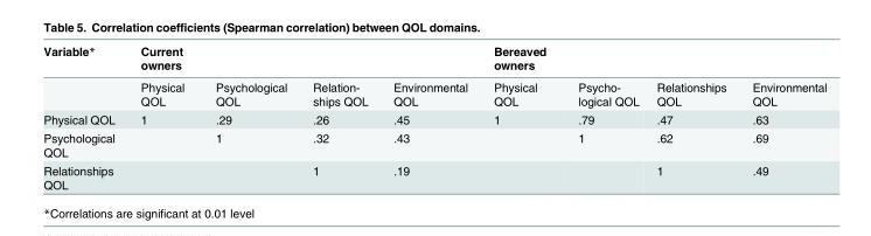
<table><thead><tr><td>Variable*</td><td>Current owners</td><td></td><td></td><td></td><td>Bereaved owners</td><td></td><td></td><td></td></tr></thead><tbody><tr><td></td><td>Physical QOL</td><td>Psychological QOL</td><td>Relation- ships QOL</td><td>Environmental QOL</td><td>Physical QOL</td><td>Psycho- logical QOL</td><td>Relationships QOL</td><td>Environmental QOL</td></tr><tr><td>Physical QOL</td><td>1</td><td>.29</td><td>.26</td><td>.45</td><td>1</td><td>.79</td><td>.47</td><td>.63</td></tr><tr><td>Psychological QOL</td><td></td><td>1</td><td>.32</td><td>.43</td><td></td><td>1</td><td>.62</td><td>.69</td></tr><tr><td>Relationships QOL</td><td></td><td></td><td>1</td><td>.19</td><td></td><td></td><td>1</td><td>.49</td></tr></tbody></table>